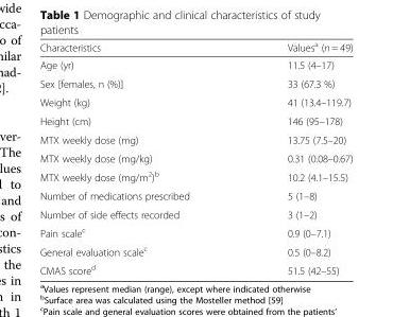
<table><thead><tr><td>Characteristics</td><td>Values<sup>a</sup> (n = 49)</td></tr></thead><tbody><tr><td>Age (yr)</td><td>11.5 (4–17)</td></tr><tr><td>Sex [females, n (%)]</td><td>33 (67.3 %)</td></tr><tr><td>Weight (kg)</td><td>41 (13.4–119.7)</td></tr><tr><td>Height (cm)</td><td>146 (95–178)</td></tr><tr><td>MTX weekly dose (mg)</td><td>13.75 (7.5–20)</td></tr><tr><td>MTX weekly dose (mg/kg)</td><td>0.31 (0.08–0.67)</td></tr><tr><td>MTX weekly dose (mg/m<sup>2</sup>)<sup>b</sup></td><td>10.2 (4.1–15.5)</td></tr><tr><td>Number of medications prescribed</td><td>5 (1–8)</td></tr><tr><td>Number of side effects recorded</td><td>3 (1–2)</td></tr><tr><td>Pain scale<sup>c</sup></td><td>0.9 (0–7.1)</td></tr><tr><td>General evaluation scale<sup>c</sup></td><td>0.5 (0–8.2)</td></tr><tr><td>CMAS score<sup>d</sup></td><td>51.5 (42–55)</td></tr></tbody></table>